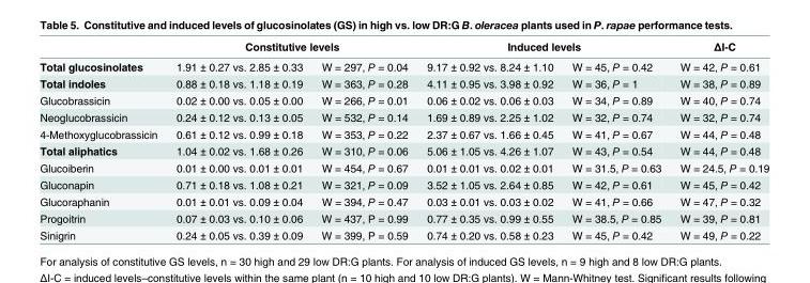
<table><thead><tr><td rowspan="2">Total glucosinolates</td><td colspan="2">Constitutive levels</td><td colspan="2">Induced levels</td><td rowspan="2">ΔI-C W = 42, P = 0.61</td></tr><tr><td>1.91 ± 0.27 vs. 2.85 ± 0.33</td><td>W = 297, P = 0.04</td><td>9.17 ± 0.92 vs. 8.24 ± 1.10</td><td>W = 45, P = 0.42</td></tr></thead><tbody><tr><td>Total indoles</td><td>0.88 ± 0.18 vs. 1.18 ± 0.19</td><td>W = 363, P = 0.28</td><td>4.11 ± 0.95 vs. 3.98 ± 0.92</td><td>W = 36, P = 1</td><td>W = 38, P = 0.89</td></tr><tr><td>Glucobrassicin</td><td>0.02 ± 0.00 vs. 0.05 ± 0.00</td><td>W = 266, P = 0.01</td><td>0.06 ± 0.02 vs. 0.06 ± 0.03</td><td>W = 34, P = 0.89</td><td>W = 40, P = 0.74</td></tr><tr><td>Neoglucobrassicin</td><td>0.24 ± 0.12 vs. 0.13 ± 0.05</td><td>W = 532, P = 0.14</td><td>1.69 ± 0.89 vs. 2.25 ± 1.02</td><td>W = 32, P = 0.74</td><td>W = 32, P = 0.74</td></tr><tr><td>4-Methoxyglucobrassicin</td><td>0.61 ± 0.12 vs. 0.99 ± 0.18</td><td>W = 353, P = 0.22</td><td>2.37 ± 0.67 vs. 1.66 ± 0.45</td><td>W = 41, P = 0.67</td><td>W = 44, P = 0.48</td></tr><tr><td>Total aliphatics</td><td>1.04 ± 0.02 vs. 1.68 ± 0.26</td><td>W = 310, P = 0.06</td><td>5.06 ± 1.05 vs. 4.26 ± 1.07</td><td>W = 43, P = 0.54</td><td>W = 44, P = 0.48</td></tr><tr><td>Glucoiberin</td><td>0.01 ± 0.00 vs. 0.01 ± 0.01</td><td>W = 454, P = 0.67</td><td>0.01 ± 0.01 vs. 0.02 ± 0.01</td><td>W = 31.5, P = 0.63</td><td>W = 24.5, P = 0.19</td></tr><tr><td>Gluconapin</td><td>0.71 ± 0.18 vs. 1.08 ± 0.21</td><td>W = 321, P = 0.09</td><td>3.52 ± 1.05 vs. 2.64 ± 0.85</td><td>W = 42, P = 0.61</td><td>W = 45, P = 0.42</td></tr><tr><td>Glucoraphanin</td><td>0.01 ± 0.01 vs. 0.09 ± 0.04</td><td>W = 394, P = 0.47</td><td>0.03 ± 0.01 vs. 0.03 ± 0.02</td><td>W = 41, P = 0.66</td><td>W = 47, P = 0.32</td></tr><tr><td>Progoitrin</td><td>0.07 ± 0.03 vs. 0.10 ± 0.06</td><td>W = 437, P = 0.99</td><td>0.77 ± 0.35 vs. 0.99 ± 0.55</td><td>W = 38.5, P = 0.85</td><td>W = 39, P = 0.81</td></tr><tr><td>Sinigrin</td><td>0.24 ± 0.05 vs. 0.39 ± 0.09</td><td>W = 399, P = 0.59</td><td>0.74 ± 0.20 vs. 0.58 ± 0.23</td><td>W = 45, P = 0.42</td><td>W = 49, P = 0.22</td></tr></tbody></table>